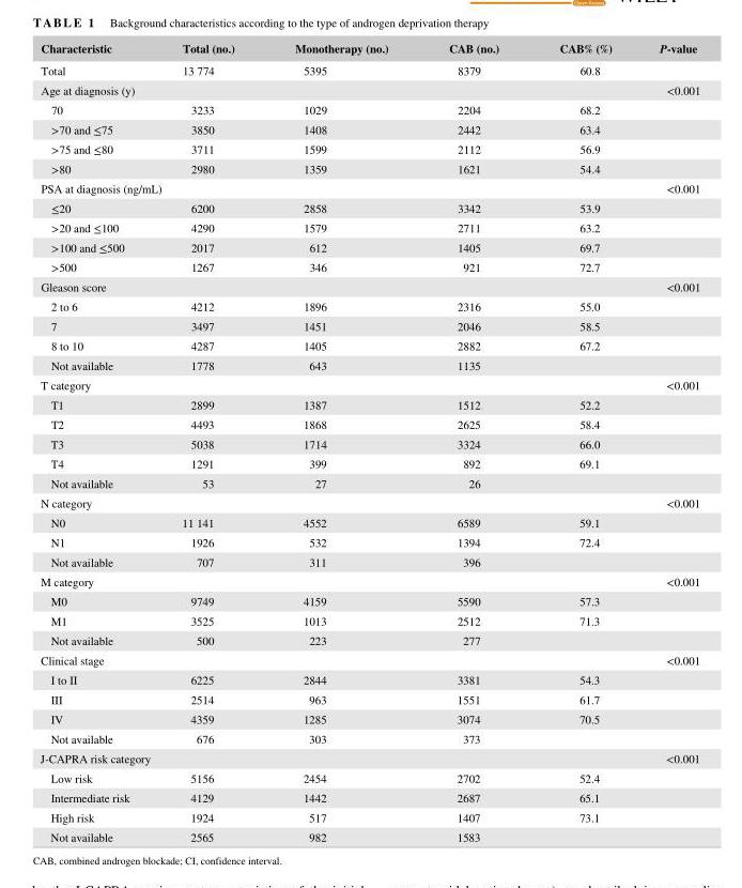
<table><thead><tr><td>Characteristic</td><td>Total (no.)</td><td>Monotherapy (no.)</td><td>CAB (no.)</td><td>CAB% (%)</td><td>P- value</td></tr></thead><tbody><tr><td>Total</td><td>13 774</td><td>5395</td><td>8379</td><td>60.8</td><td></td></tr><tr><td>Age at diagnosis (y)</td><td></td><td></td><td></td><td></td><td>&lt;0.001</td></tr><tr><td>70</td><td>3233</td><td>1029</td><td>2204</td><td>68.2</td><td></td></tr><tr><td>&gt;70 and ≤75</td><td>3850</td><td>1408</td><td>2442</td><td>63.4</td><td></td></tr><tr><td>&gt;75 and ≤80</td><td>3711</td><td>1599</td><td>2112</td><td>56.9</td><td></td></tr><tr><td>&gt;80</td><td>2980</td><td>1359</td><td>1621</td><td>54.4</td><td></td></tr><tr><td>PSA at diagnosis (ng/mL)</td><td></td><td></td><td></td><td></td><td>&lt;0.001</td></tr><tr><td>≤20</td><td>6200</td><td>2858</td><td>3342</td><td>53.9</td><td></td></tr><tr><td>&gt;20 and ≤100</td><td>4290</td><td>1579</td><td>2711</td><td>63.2</td><td></td></tr><tr><td>&gt;100 and ≤500</td><td>2017</td><td>612</td><td>1405</td><td>69.7</td><td></td></tr><tr><td>&gt;500</td><td>1267</td><td>346</td><td>921</td><td>72.7</td><td></td></tr><tr><td>Gleason score</td><td></td><td></td><td></td><td></td><td>&lt;0.001</td></tr><tr><td>2 to 6</td><td>4212</td><td>1896</td><td>2316</td><td>55.0</td><td></td></tr><tr><td>7</td><td>3497</td><td>1451</td><td>2046</td><td>58.5</td><td></td></tr><tr><td>8 to 10</td><td>4287</td><td>1405</td><td>2882</td><td>67.2</td><td></td></tr><tr><td>Not available</td><td>1778</td><td>643</td><td>1135</td><td></td><td></td></tr><tr><td>T category</td><td></td><td></td><td></td><td></td><td>&lt;0.001</td></tr><tr><td>T1</td><td>2899</td><td>1387</td><td>1512</td><td>52.2</td><td></td></tr><tr><td>T2</td><td>4493</td><td>1868</td><td>2625</td><td>58.4</td><td></td></tr><tr><td>T3</td><td>5038</td><td>1714</td><td>3324</td><td>66.0</td><td></td></tr><tr><td>T4</td><td>1291</td><td>399</td><td>892</td><td>69.1</td><td></td></tr><tr><td>Not available</td><td>53</td><td>27</td><td>26</td><td></td><td></td></tr><tr><td>N category</td><td></td><td></td><td></td><td></td><td>&lt;0.001</td></tr><tr><td>N0</td><td>11 141</td><td>4552</td><td>6589</td><td>59.1</td><td></td></tr><tr><td>N1</td><td>1926</td><td>532</td><td>1394</td><td>72.4</td><td></td></tr><tr><td>Not available</td><td>707</td><td>311</td><td>396</td><td></td><td></td></tr><tr><td>M category</td><td></td><td></td><td></td><td></td><td>&lt;0.001</td></tr><tr><td>M0</td><td>9749</td><td>4159</td><td>5590</td><td>57.3</td><td></td></tr><tr><td>M1</td><td>3525</td><td>1013</td><td>2512</td><td>71.3</td><td></td></tr><tr><td>Not available</td><td>500</td><td>223</td><td>277</td><td></td><td></td></tr><tr><td>Clinical stage</td><td></td><td></td><td></td><td></td><td>&lt;0.001</td></tr><tr><td>I to II</td><td>6225</td><td>2844</td><td>3381</td><td>54.3</td><td></td></tr><tr><td>III</td><td>2514</td><td>963</td><td>1551</td><td>61.7</td><td></td></tr><tr><td>IV</td><td>4359</td><td>1285</td><td>3074</td><td>70.5</td><td></td></tr><tr><td>Not available</td><td>676</td><td>303</td><td>373</td><td></td><td></td></tr><tr><td>J- CAPRA risk category</td><td></td><td></td><td></td><td></td><td>&lt;0.001</td></tr><tr><td>Low risk</td><td>5156</td><td>2454</td><td>2702</td><td>52.4</td><td></td></tr><tr><td>Intermediate risk</td><td>4129</td><td>1442</td><td>2687</td><td>65.1</td><td></td></tr><tr><td>High risk</td><td>1924</td><td>517</td><td>1407</td><td>73.1</td><td></td></tr><tr><td>Not available</td><td>2565</td><td>982</td><td>1583</td><td></td><td></td></tr></tbody></table>